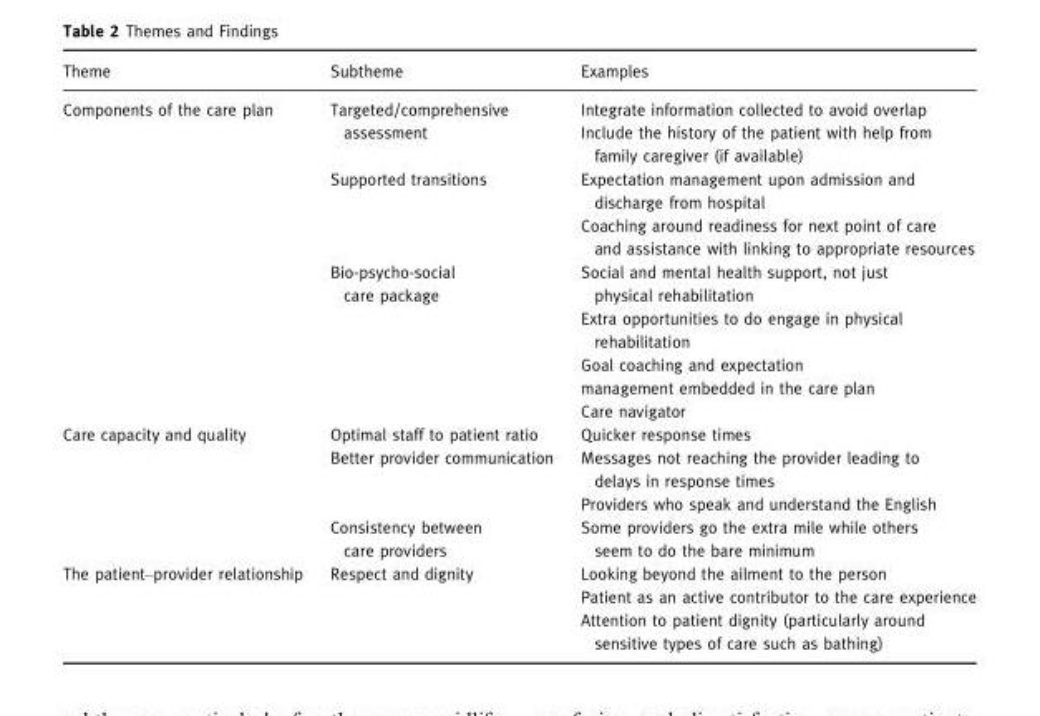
<table><thead><tr><td>Theme</td><td>Subtheme</td><td>Examples</td></tr></thead><tbody><tr><td rowspan="9">Components of the care plan</td><td rowspan="2">Targeted/comprehensive assessment</td><td>Integrate information collected to avoid overlap</td></tr><tr><td>Include the history of the patient with help from family caregiver (if available)</td></tr><tr><td rowspan="2">Supported transitions</td><td>Expectation management upon admission and discharge from hospital</td></tr><tr><td>Coaching around readiness for next point of care and assistance with linking to appropriate resources</td></tr><tr><td rowspan="5">Bio-psycho-social care package</td><td>Social and mental health support, not just physical rehabilitation</td></tr><tr><td>Extra opportunities to do engage in physical rehabilitation</td></tr><tr><td>Goal coaching and expectation</td></tr><tr><td>management embedded in the care plan</td></tr><tr><td>Care navigator</td></tr><tr><td rowspan="4">Care capacity and quality</td><td>Optimal staff to patient ratio</td><td>Quicker response times</td></tr><tr><td rowspan="2">Better provider communication</td><td>Messages not reaching the provider leading to delays in response times</td></tr><tr><td>Providers who speak and understand the English</td></tr><tr><td>Consistency between care providers</td><td>Some providers go the extra mile while others seem to do the bare minimum</td></tr><tr><td rowspan="3">The patient–provider relationship</td><td rowspan="3">Respect and dignity</td><td>Looking beyond the ailment to the person</td></tr><tr><td>Patient as an active contributor to the care experience</td></tr><tr><td>Attention to patient dignity (particularly around sensitive types of care such as bathing)</td></tr></tbody></table>